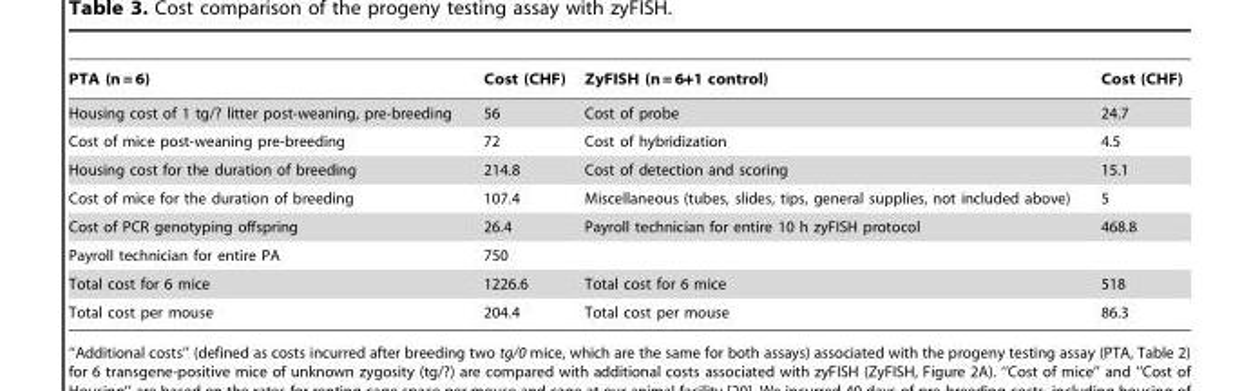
<table><thead><tr><td>PTA (n = 6)</td><td>Cost (CHF)</td><td>ZyFISH (n = 6+1 control)</td><td>Cost (CHF)</td></tr></thead><tbody><tr><td>Housing cost of 1 tg/? litter post-weaning, pre-breeding</td><td>56</td><td>Cost of probe</td><td>24.7</td></tr><tr><td>Cost of mice post-weaning pre-breeding</td><td>72</td><td>Cost of hybridization</td><td>4.5</td></tr><tr><td>Housing cost for the duration of breeding</td><td>214.8</td><td>Cost of detection and scoring</td><td>15.1</td></tr><tr><td>Cost of mice for the duration of breeding</td><td>107.4</td><td>Miscellaneous (tubes, slides, tips, general supplies, not included above)</td><td>5</td></tr><tr><td>Cost of PCR genotyping offspring</td><td>26.4</td><td>Payroll technician for entire 10 h zyFISH protocol</td><td>468.8</td></tr><tr><td>Payroll technician for entire PA</td><td>750</td><td></td><td></td></tr><tr><td>Total cost for 6 mice</td><td>1226.6</td><td>Total cost for 6 mice</td><td>518</td></tr><tr><td>Total cost per mouse</td><td>204.4</td><td>Total cost per mouse</td><td>86.3</td></tr></tbody></table>